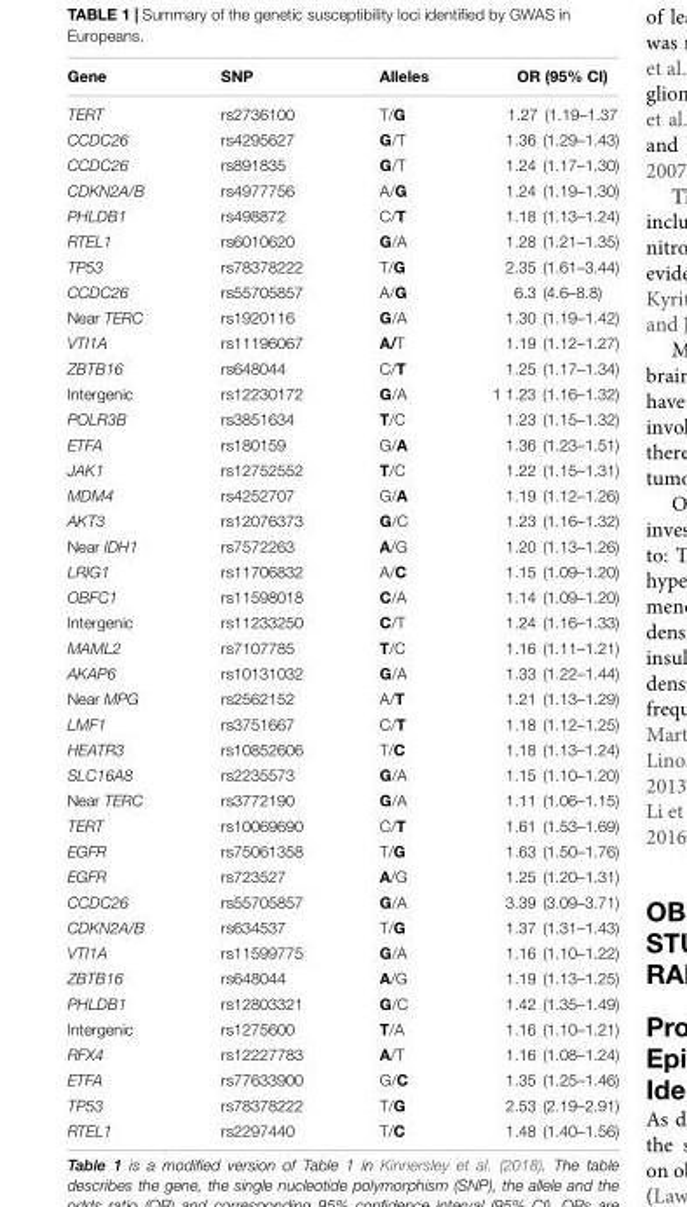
<table><thead><tr><td>Gene</td><td>SNP</td><td>Alleles</td><td>OR (95% CI)</td></tr></thead><tbody><tr><td>TERT</td><td>rs2736100</td><td>T/G</td><td>1.27 (1.19–1.37</td></tr><tr><td>CCDC26</td><td>rs4295627</td><td>G/T</td><td>1.36 (1.29–1.43)</td></tr><tr><td>CCDC26</td><td>rs891835</td><td>G/T</td><td>1.24 (1.17–1.30)</td></tr><tr><td>CDKN2A/B</td><td>rs4977756</td><td>A/G</td><td>1.24 (1.19–1.30)</td></tr><tr><td>PHLDB1</td><td>rs498872</td><td>C/T</td><td>1.18 (1.13–1.24)</td></tr><tr><td>RTEL1</td><td>rs6010620</td><td>G/A</td><td>1.28 (1.21–1.35)</td></tr><tr><td>TP53</td><td>rs78378222</td><td>T/G</td><td>2.35 (1.61–3.44)</td></tr><tr><td>CCDC26</td><td>rs55705857</td><td>A/G</td><td>6.3 (4.6–8.8)</td></tr><tr><td>Near TERC</td><td>rs1920116</td><td>G/A</td><td>1.30 (1.19–1.42)</td></tr><tr><td>VTI1A</td><td>rs11196067</td><td>A/T</td><td>1.19 (1.12–1.27)</td></tr><tr><td>ZBTB16</td><td>rs648044</td><td>C/T</td><td>1.25 (1.17–1.34)</td></tr><tr><td>Intergenic</td><td>rs12230172</td><td>G/A</td><td>1 1.23 (1.16–1.32)</td></tr><tr><td>POLR3B</td><td>rs3851634</td><td>T/C</td><td>1.23 (1.15–1.32)</td></tr><tr><td>ETFA</td><td>rs180159</td><td>G/A</td><td>1.36 (1.23–1.51)</td></tr><tr><td>JAK1</td><td>rs12752552</td><td>T/C</td><td>1.22 (1.15–1.31)</td></tr><tr><td>MDM4</td><td>rs4252707</td><td>G/A</td><td>1.19 (1.12–1.26)</td></tr><tr><td>AKT3</td><td>rs12076373</td><td>G/C</td><td>1.23 (1.16–1.32)</td></tr><tr><td>Near IDH1</td><td>rs7572263</td><td>A/G</td><td>1.20 (1.13–1.26)</td></tr><tr><td>LRIG1</td><td>rs11706832</td><td>A/C</td><td>1.15 (1.09–1.20)</td></tr><tr><td>OBFC1</td><td>rs11598018</td><td>C/A</td><td>1.14 (1.09–1.20)</td></tr><tr><td>Intergenic</td><td>rs11233250</td><td>C/T</td><td>1.24 (1.16–1.33)</td></tr><tr><td>MAML2</td><td>rs7107785</td><td>T/C</td><td>1.16 (1.11–1.21)</td></tr><tr><td>AKAP6</td><td>rs10131032</td><td>G/A</td><td>1.33 (1.22–1.44)</td></tr><tr><td>Near MPG</td><td>rs2562152</td><td>A/T</td><td>1.21 (1.13–1.29)</td></tr><tr><td>LMF1</td><td>rs3751667</td><td>C/T</td><td>1.18 (1.12–1.25)</td></tr><tr><td>HEATR3</td><td>rs10852606</td><td>T/C</td><td>1.18 (1.13–1.24)</td></tr><tr><td>SLC16A8</td><td>rs2235573</td><td>G/A</td><td>1.15 (1.10–1.20)</td></tr><tr><td>Near TERC</td><td>rs3772190</td><td>G/A</td><td>1.11 (1.06–1.15)</td></tr><tr><td>TERT</td><td>rs10069690</td><td>C/T</td><td>1.61 (1.53–1.69)</td></tr><tr><td>EGFR</td><td>rs75061358</td><td>T/G</td><td>1.63 (1.50–1.76)</td></tr><tr><td>EGFR</td><td>rs723527</td><td>A/G</td><td>1.25 (1.20–1.31)</td></tr><tr><td>CCDC26</td><td>rs55705857</td><td>G/A</td><td>3.39 (3.09–3.71)</td></tr><tr><td>CDKN2A/B</td><td>rs634537</td><td>T/G</td><td>1.37 (1.31–1.43)</td></tr><tr><td>VTI1A</td><td>rs11599775</td><td>G/A</td><td>1.16 (1.10–1.22)</td></tr><tr><td>ZBTB16</td><td>rs648044</td><td>A/G</td><td>1.19 (1.13–1.25)</td></tr><tr><td>PHLDB1</td><td>rs12803321</td><td>G/C</td><td>1.42 (1.35–1.49)</td></tr><tr><td>Intergenic</td><td>rs1275600</td><td>T/A</td><td>1.16 (1.10–1.21)</td></tr><tr><td>RFX4</td><td>rs12227783</td><td>A/T</td><td>1.16 (1.08–1.24)</td></tr><tr><td>ETFA</td><td>rs77633900</td><td>G/C</td><td>1.35 (1.25–1.46)</td></tr><tr><td>TP53</td><td>rs78378222</td><td>T/G</td><td>2.53 (2.19–2.91)</td></tr><tr><td>RTEL1</td><td>rs2297440</td><td>T/C</td><td>1.48 (1.40–1.56)</td></tr></tbody></table>